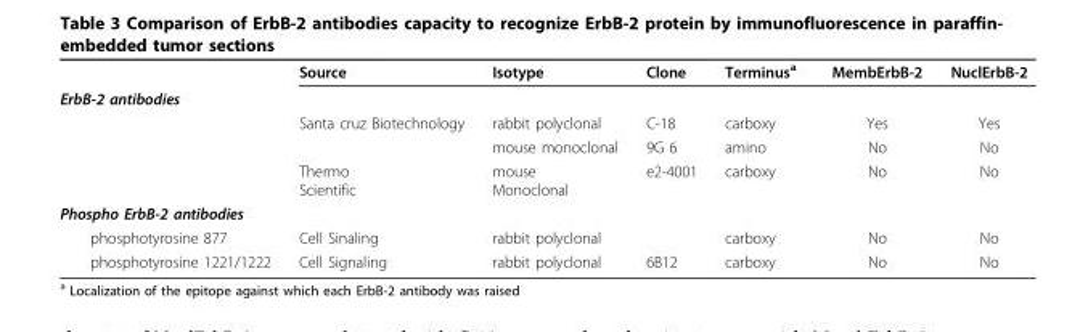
<table><thead><tr><td></td><td>Source</td><td>Isotype</td><td>Clone</td><td>Terminus<sup>a</sup></td><td>MembErbB-2</td><td>NuclErbB-2</td></tr></thead><tbody><tr><td colspan="7">ErbB-2 antibodies</td></tr><tr><td></td><td>Santa cruz Biotechnology</td><td>rabbit polyclonal</td><td>C-18</td><td>carboxy</td><td>Yes</td><td>Yes</td></tr><tr><td></td><td></td><td>mouse monoclonal</td><td>9G 6</td><td>amino</td><td>No</td><td>No</td></tr><tr><td></td><td>Thermo Scientific</td><td>mouse Monoclonal</td><td>e2-4001</td><td>carboxy</td><td>No</td><td>No</td></tr><tr><td colspan="7">Phospho ErbB-2 antibodies</td></tr><tr><td>phosphotyrosine 877</td><td>Cell Sinaling</td><td>rabbit polyclonal</td><td></td><td>carboxy</td><td>No</td><td>No</td></tr><tr><td>phosphotyrosine 1221/1222</td><td>Cell Signaling</td><td>rabbit polyclonal</td><td>6B12</td><td>carboxy</td><td>No</td><td>No</td></tr></tbody></table>